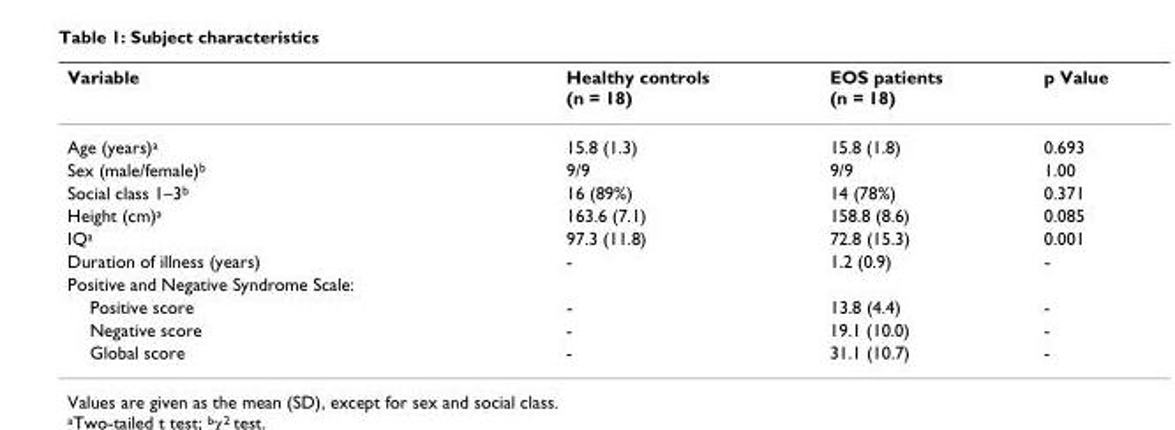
<table><thead><tr><td>Variable</td><td>Healthy controls (n = 18)</td><td>EOS patients (n = 18)</td><td>p Value</td></tr></thead><tbody><tr><td>Age (years)<sup>a</sup></td><td>15.8 (1.3)</td><td>15.8 (1.8)</td><td>0.693</td></tr><tr><td>Sex (male/female)<sup>b</sup></td><td>9/9</td><td>9/9</td><td>1.00</td></tr><tr><td>Social class 1–3<sup>b</sup></td><td>16 (89%)</td><td>14 (78%)</td><td>0.371</td></tr><tr><td>Height (cm)<sup>a</sup></td><td>163.6 (7.1)</td><td>158.8 (8.6)</td><td>0.085</td></tr><tr><td>IQ<sup>a</sup></td><td>97.3 (11.8)</td><td>72.8 (15.3)</td><td>0.001</td></tr><tr><td>Duration of illness (years)</td><td>-</td><td>1.2 (0.9)</td><td>-</td></tr><tr><td colspan="4">Positive and Negative Syndrome Scale:</td></tr><tr><td>Positive score</td><td>-</td><td>13.8 (4.4)</td><td>-</td></tr><tr><td>Negative score</td><td>-</td><td>19.1 (10.0)</td><td>-</td></tr><tr><td>Global score</td><td>-</td><td>31.1 (10.7)</td><td>-</td></tr></tbody></table>